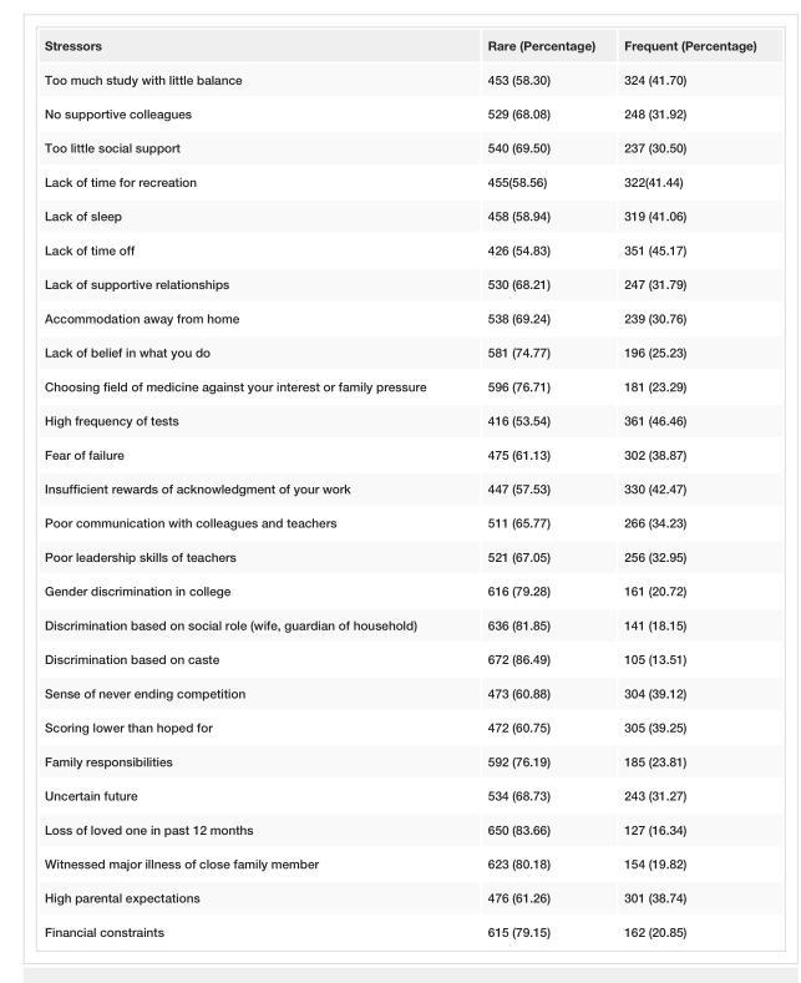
<table><tbody><tr><td>Stressors</td><td>Rare (Percentage)</td><td>Frequent (Percentage)</td></tr><tr><td>Too much study with little balance</td><td>453 (58.30)</td><td>324 (41.70)</td></tr><tr><td>No supportive colleagues</td><td>529 (68.08)</td><td>248 (31.92)</td></tr><tr><td>Too little social support</td><td>540 (69.50)</td><td>237 (30.50)</td></tr><tr><td>Lack of time for recreation</td><td>455(58.56)</td><td>322(41.44)</td></tr><tr><td>Lack of sleep</td><td>458 (58.94)</td><td>319 (41.06)</td></tr><tr><td>Lack of time off</td><td>426 (54.83)</td><td>351 (45.17)</td></tr><tr><td>Lack of supportive relationships</td><td>530 (68.21)</td><td>247 (31.79)</td></tr><tr><td>Accommodation away from home</td><td>538 (69.24)</td><td>239 (30.76)</td></tr><tr><td>Lack of belief in what you do</td><td>581 (74.77)</td><td>196 (25.23)</td></tr><tr><td>Choosing field of medicine against your interest or family pressure</td><td>596 (76.71)</td><td>181 (23.29)</td></tr><tr><td>High frequency of tests</td><td>416 (53.54)</td><td>361 (46.46)</td></tr><tr><td>Fear of failure</td><td>475 (61.13)</td><td>302 (38.87)</td></tr><tr><td>Insufficient rewards of acknowledgment of your work</td><td>447 (57.53)</td><td>330 (42.47)</td></tr><tr><td>Poor communication with colleagues and teachers</td><td>511 (65.77)</td><td>266 (34.23)</td></tr><tr><td>Poor leadership skills of teachers</td><td>521 (67.05)</td><td>256 (32.95)</td></tr><tr><td>Gender discrimination in college</td><td>616 (79.28)</td><td>161 (20.72)</td></tr><tr><td>Discrimination based on social role (wife, guardian of household)</td><td>636 (81.85)</td><td>141 (18.15)</td></tr><tr><td>Discrimination based on caste</td><td>672 (86.49)</td><td>105 (13.51)</td></tr><tr><td>Sense of never ending competition</td><td>473 (60.88)</td><td>304 (39.12)</td></tr><tr><td>Scoring lower than hoped for</td><td>472 (60.75)</td><td>305 (39.25)</td></tr><tr><td>Family responsibilities</td><td>592 (76.19)</td><td>185 (23.81)</td></tr><tr><td>Uncertain future</td><td>534 (68.73)</td><td>243 (31.27)</td></tr><tr><td>Loss of loved one in past 12 months</td><td>650 (83.66)</td><td>127 (16.34)</td></tr><tr><td>Witnessed major illness of close family member</td><td>623 (80.18)</td><td>154 (19.82)</td></tr><tr><td>High parental expectations</td><td>476 (61.26)</td><td>301 (38.74)</td></tr><tr><td>Financial constraints</td><td>615 (79.15)</td><td>162 (20.85)</td></tr></tbody></table>